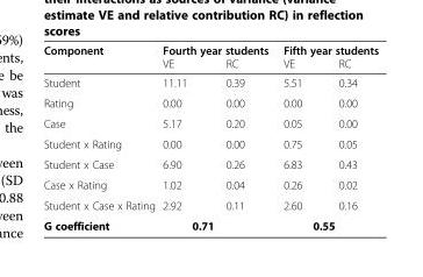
<table><thead><tr><td rowspan="2">Component</td><td colspan="2">Fourth year students</td><td colspan="2">Fifth year students</td></tr><tr><td>VE</td><td>RC</td><td>VE</td><td>RC</td></tr></thead><tbody><tr><td>Student</td><td>11.11</td><td>0.39</td><td>5.51</td><td>0.34</td></tr><tr><td>Rating</td><td>0.00</td><td>0.00</td><td>0.00</td><td>0.00</td></tr><tr><td>Case</td><td>5.17</td><td>0.20</td><td>0.05</td><td>0.00</td></tr><tr><td>Student x Rating</td><td>0.00</td><td>0.00</td><td>0.75</td><td>0.05</td></tr><tr><td>Student x Case</td><td>6.90</td><td>0.26</td><td>6.83</td><td>0.43</td></tr><tr><td>Case x Rating</td><td>1.02</td><td>0.04</td><td>0.26</td><td>0.02</td></tr><tr><td>Student x Case x Rating</td><td>2.92</td><td>0.11</td><td>2.60</td><td>0.16</td></tr><tr><td>G coefficient</td><td colspan="2">0.71</td><td colspan="2">0.55</td></tr></tbody></table>